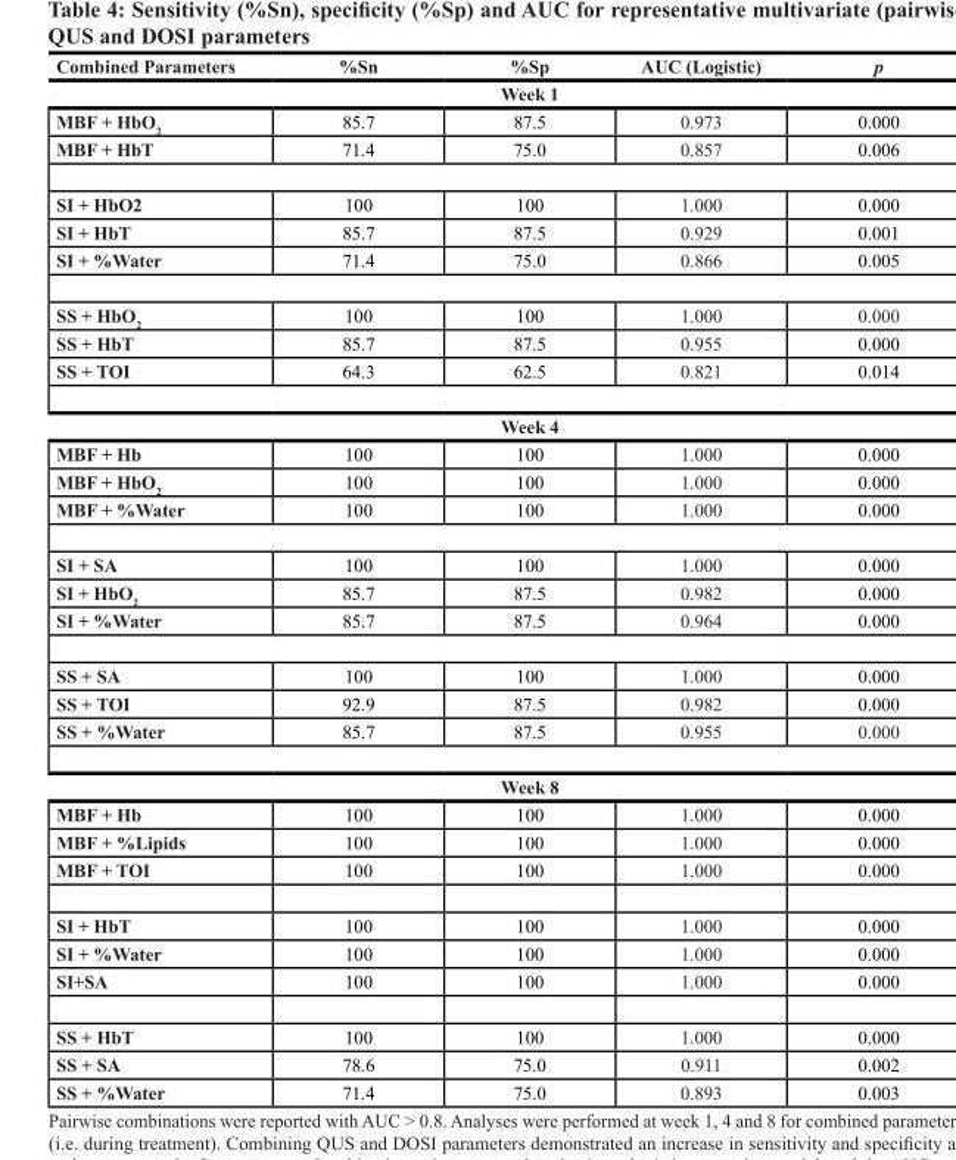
<table><thead><tr><td>Combined Parameters</td><td>%Sn</td><td>%Sp</td><td>AUC (Logistic)</td><td>p</td></tr><tr><td colspan="5">Week 1</td></tr></thead><tbody><tr><td>MBF + HbO<sub>2</sub></td><td>85.7</td><td>87.5</td><td>0.973</td><td>0.000</td></tr><tr><td>MBF + HbT</td><td>71.4</td><td>75.0</td><td>0.857</td><td>0.006</td></tr><tr><td>SI + HbO2</td><td>100</td><td>100</td><td>1.000</td><td>0.000</td></tr><tr><td>SI + HbT</td><td>85.7</td><td>87.5</td><td>0.929</td><td>0.001</td></tr><tr><td>SI + %Water</td><td>71.4</td><td>75.0</td><td>0.866</td><td>0.005</td></tr><tr><td>SS + HbO<sub>2</sub></td><td>100</td><td>100</td><td>1.000</td><td>0.000</td></tr><tr><td>SS + HbT</td><td>85.7</td><td>87.5</td><td>0.955</td><td>0.000</td></tr><tr><td>SS + TOI</td><td>64.3</td><td>62.5</td><td>0.821</td><td>0.014</td></tr><tr><td colspan="5">Week 4</td></tr><tr><td>MBF + Hb</td><td>100</td><td>100</td><td>1.000</td><td>0.000</td></tr><tr><td>MBF + HbO<sub>2</sub></td><td>100</td><td>100</td><td>1.000</td><td>0.000</td></tr><tr><td>MBF + %Water</td><td>100</td><td>100</td><td>1.000</td><td>0.000</td></tr><tr><td>SI + SA</td><td>100</td><td>100</td><td>1.000</td><td>0.000</td></tr><tr><td>SI + HbO<sub>2</sub></td><td>85.7</td><td>87.5</td><td>0.982</td><td>0.000</td></tr><tr><td>SI + %Water</td><td>85.7</td><td>87.5</td><td>0.964</td><td>0.000</td></tr><tr><td>SS + SA</td><td>100</td><td>100</td><td>1.000</td><td>0.000</td></tr><tr><td>SS + TOI</td><td>92.9</td><td>87.5</td><td>0.982</td><td>0.000</td></tr><tr><td>SS + %Water</td><td>85.7</td><td>87.5</td><td>0.955</td><td>0.000</td></tr><tr><td colspan="5">Week 8</td></tr><tr><td>MBF + Hb</td><td>100</td><td>100</td><td>1.000</td><td>0.000</td></tr><tr><td>MBF + %Lipids</td><td>100</td><td>100</td><td>1.000</td><td>0.000</td></tr><tr><td>MBF + TOI</td><td>100</td><td>100</td><td>1.000</td><td>0.000</td></tr><tr><td>SI + HbT</td><td>100</td><td>100</td><td>1.000</td><td>0.000</td></tr><tr><td>SI + %Water</td><td>100</td><td>100</td><td>1.000</td><td>0.000</td></tr><tr><td>SI+SA</td><td>100</td><td>100</td><td>1.000</td><td>0.000</td></tr><tr><td>SS + HbT</td><td>100</td><td>100</td><td>1.000</td><td>0.000</td></tr><tr><td>SS + SA</td><td>78.6</td><td>75.0</td><td>0.911</td><td>0.002</td></tr><tr><td>SS + %Water</td><td>71.4</td><td>75.0</td><td>0.893</td><td>0.003</td></tr></tbody></table>